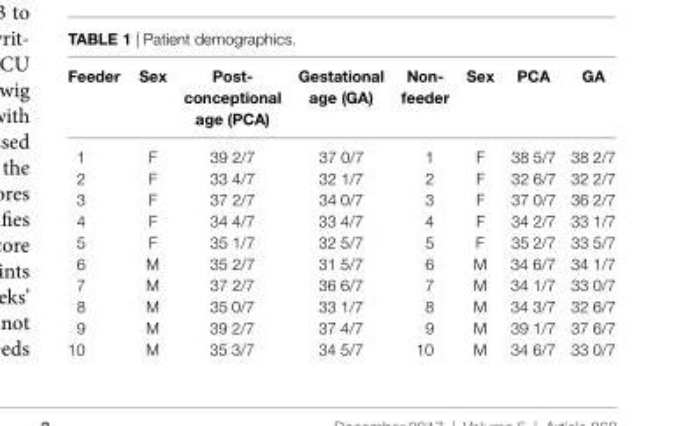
<table><thead><tr><td>Feeder</td><td>sex</td><td>Post- conceptional age (Pca)</td><td>gestational age (ga)</td><td>non- feeder</td><td>sex</td><td>Pca</td><td>ga</td></tr></thead><tbody><tr><td>1</td><td>F</td><td>39 2/7</td><td>37 0/7</td><td>1</td><td>F</td><td>38 5/7</td><td>38 2/7</td></tr><tr><td>2</td><td>F</td><td>33 4/7</td><td>32 1/7</td><td>2</td><td>F</td><td>32 6/7</td><td>32 2/7</td></tr><tr><td>3</td><td>F</td><td>37 2/7</td><td>34 0/7</td><td>3</td><td>F</td><td>37 0/7</td><td>36 2/7</td></tr><tr><td>4</td><td>F</td><td>34 4/7</td><td>33 4/7</td><td>4</td><td>F</td><td>34 2/7</td><td>33 1/7</td></tr><tr><td>5</td><td>F</td><td>35 1/7</td><td>32 5/7</td><td>5</td><td>F</td><td>35 2/7</td><td>33 5/7</td></tr><tr><td>6</td><td>M</td><td>35 2/7</td><td>31 5/7</td><td>6</td><td>M</td><td>34 6/7</td><td>34 1/7</td></tr><tr><td>7</td><td>M</td><td>37 2/7</td><td>36 6/7</td><td>7</td><td>M</td><td>34 1/7</td><td>33 0/7</td></tr><tr><td>8</td><td>M</td><td>35 0/7</td><td>33 1/7</td><td>8</td><td>M</td><td>34 3/7</td><td>32 6/7</td></tr><tr><td>9</td><td>M</td><td>39 2/7</td><td>37 4/7</td><td>9</td><td>M</td><td>39 1/7</td><td>37 6/7</td></tr><tr><td>10</td><td>M</td><td>35 3/7</td><td>34 5/7</td><td>10</td><td>M</td><td>34 6/7</td><td>33 0/7</td></tr></tbody></table>